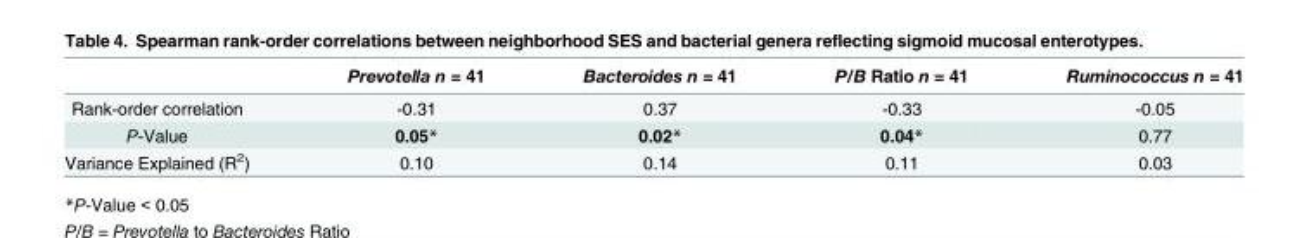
<table><thead><tr><td></td><td>Prevotella n = 41</td><td>Bacteroides n = 41</td><td>P/B Ratio n = 41</td><td>Ruminococcus n = 41</td></tr></thead><tbody><tr><td>Rank-order correlation</td><td>-0.31</td><td>0.37</td><td>-0.33</td><td>-0.05</td></tr><tr><td>P-Value</td><td>0.05*</td><td>0.02*</td><td>0.04*</td><td>0.77</td></tr><tr><td>Variance Explained (R<sup>2</sup>)</td><td>0.10</td><td>0.14</td><td>0.11</td><td>0.03</td></tr></tbody></table>